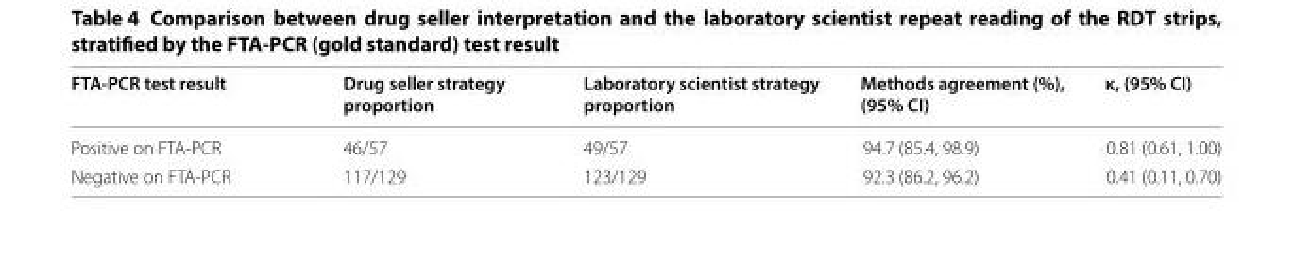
<table><thead><tr><td>FTA‑PCR test result</td><td>Drug seller strategy proportion</td><td>Laboratory scientist strategy proportion</td><td>Methods agreement (%), (95% CI)</td><td>κ, (95% CI)</td></tr></thead><tbody><tr><td>Positive on FTA-PCR</td><td>46/57</td><td>49/57</td><td>94.7 (85.4, 98.9)</td><td>0.81 (0.61, 1.00)</td></tr><tr><td>Negative on FTA-PCR</td><td>117/129</td><td>123/129</td><td>92.3 (86.2, 96.2)</td><td>0.41 (0.11, 0.70)</td></tr></tbody></table>